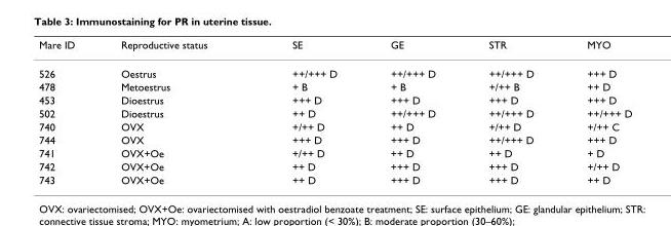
<table><thead><tr><td>Mare ID</td><td>Reproductive status</td><td>SE</td><td>GE</td><td>STR</td><td>MYO</td></tr></thead><tbody><tr><td>526</td><td>Oestrus</td><td>++/+++ D</td><td>++/+++ D</td><td>++/+++ D</td><td>+++ D</td></tr><tr><td>478</td><td>Metoestrus</td><td>+ B</td><td>+ B</td><td>+/++ B</td><td>++ D</td></tr><tr><td>453</td><td>Dioestrus</td><td>+++ D</td><td>+++ D</td><td>+++ D</td><td>+++ D</td></tr><tr><td>502</td><td>Dioestrus</td><td>++ D</td><td>++/+++ D</td><td>++/+++ D</td><td>++/+++ D</td></tr><tr><td>740</td><td>OVX</td><td>+/++ D</td><td>++ D</td><td>+/++ D</td><td>+/++ C</td></tr><tr><td>744</td><td>OVX</td><td>+++ D</td><td>+++ D</td><td>++/+++ D</td><td>+++ D</td></tr><tr><td>741</td><td>OVX+Oe</td><td>+/++ D</td><td>++ D</td><td>++ D</td><td>+ D</td></tr><tr><td>742</td><td>OVX+Oe</td><td>++ D</td><td>+++ D</td><td>+++ D</td><td>+/++ D</td></tr><tr><td>743</td><td>OVX+Oe</td><td>++ D</td><td>+++ D</td><td>+++ D</td><td>++ D</td></tr></tbody></table>